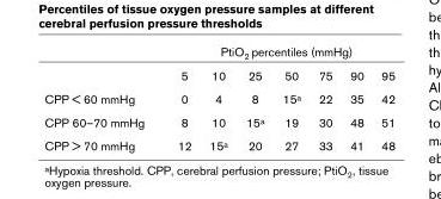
<table><thead><tr><td rowspan="2"></td><td colspan="7">PtiO2 percentiles (mmHg)</td></tr><tr><td>5</td><td>10</td><td>25</td><td>50</td><td>75</td><td>90</td><td>95</td></tr></thead><tbody><tr><td>CPP &lt; 60 mmHg</td><td>0</td><td>4</td><td>8</td><td>15a</td><td>22</td><td>35</td><td>42</td></tr><tr><td>CPP 60–70 mmHg</td><td>8</td><td>10</td><td>15a</td><td>19</td><td>30</td><td>48</td><td>51</td></tr><tr><td>CPP &gt; 70 mmHg</td><td>12</td><td>15a</td><td>20</td><td>27</td><td>33</td><td>41</td><td>48</td></tr></tbody></table>